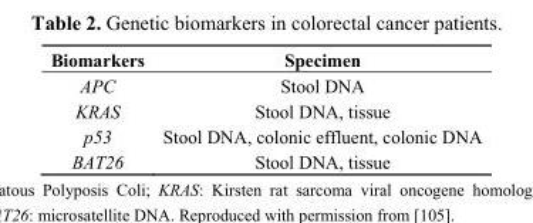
<table><thead><tr><td>Biomarkers</td><td>Specimen</td></tr></thead><tbody><tr><td>APC</td><td>Stool DNA</td></tr><tr><td>KRAS</td><td>Stool DNA, tissue</td></tr><tr><td>p53</td><td>Stool DNA, colonic effluent, colonic DNA</td></tr><tr><td>BAT26</td><td>Stool DNA, tissue</td></tr></tbody></table>